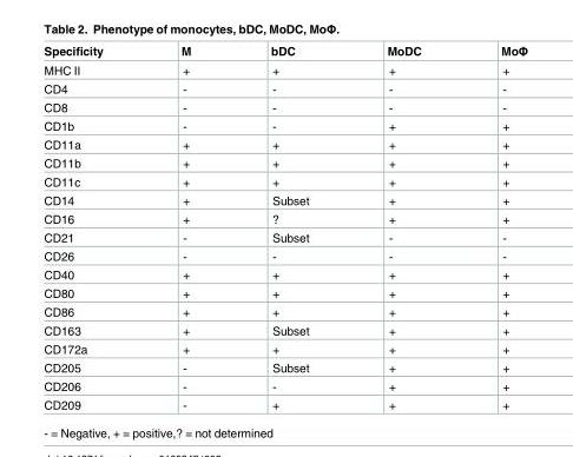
<table><thead><tr><td>Specificity</td><td>M</td><td>bDC</td><td>MoDC</td><td>MoΦ</td></tr></thead><tbody><tr><td>MHC II</td><td>+</td><td>+</td><td>+</td><td>+</td></tr><tr><td>CD4</td><td>-</td><td>-</td><td>-</td><td>-</td></tr><tr><td>CD8</td><td>-</td><td>-</td><td>-</td><td>-</td></tr><tr><td>CD1b</td><td>-</td><td>-</td><td>+</td><td>+</td></tr><tr><td>CD11a</td><td>+</td><td>+</td><td>+</td><td>+</td></tr><tr><td>CD11b</td><td>+</td><td>+</td><td>+</td><td>+</td></tr><tr><td>CD11c</td><td>+</td><td>+</td><td>+</td><td>+</td></tr><tr><td>CD14</td><td>+</td><td>Subset</td><td>+</td><td>+</td></tr><tr><td>CD16</td><td>+</td><td>?</td><td>+</td><td>+</td></tr><tr><td>CD21</td><td>-</td><td>Subset</td><td>-</td><td>-</td></tr><tr><td>CD26</td><td>-</td><td>-</td><td>-</td><td>-</td></tr><tr><td>CD40</td><td>+</td><td>+</td><td>+</td><td>+</td></tr><tr><td>CD80</td><td>+</td><td>+</td><td>+</td><td>+</td></tr><tr><td>CD86</td><td>+</td><td>+</td><td>+</td><td>+</td></tr><tr><td>CD163</td><td>+</td><td>Subset</td><td>+</td><td>+</td></tr><tr><td>CD172a</td><td>+</td><td>+</td><td>+</td><td>+</td></tr><tr><td>CD205</td><td>-</td><td>Subset</td><td>+</td><td>+</td></tr><tr><td>CD206</td><td>-</td><td>-</td><td>+</td><td>+</td></tr><tr><td>CD209</td><td>-</td><td>+</td><td>+</td><td>+</td></tr></tbody></table>